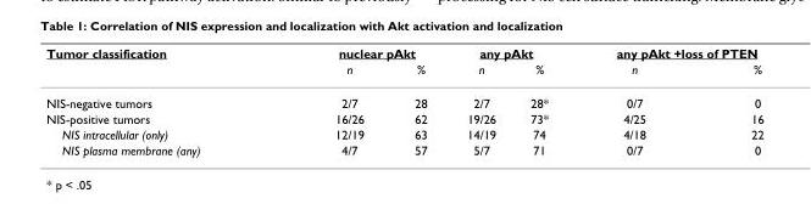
<table><thead><tr><td rowspan="2">Tumor classification</td><td colspan="2">nuclear pAkt</td><td colspan="2">any pAkt</td><td colspan="2">any pAkt +loss of PTEN</td></tr><tr><td>n</td><td>%</td><td>n</td><td>%</td><td>n</td><td>%</td></tr></thead><tbody><tr><td>NIS-negative tumors</td><td>2/7</td><td>28</td><td>2/7</td><td>28*</td><td>0/7</td><td>0</td></tr><tr><td>NIS-positive tumors</td><td>16/26</td><td>62</td><td>19/26</td><td>73*</td><td>4/25</td><td>16</td></tr><tr><td>NIS intracellular (only)</td><td>12/19</td><td>63</td><td>14/19</td><td>74</td><td>4/18</td><td>22</td></tr><tr><td>NIS plasma membrane (any)</td><td>4/7</td><td>57</td><td>5/7</td><td>71</td><td>0/7</td><td>0</td></tr></tbody></table>